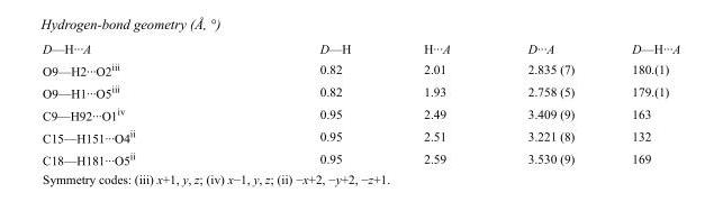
<table><tbody><tr><td>D—H···A</td><td>D—H</td><td>H···A</td><td>D···A</td><td>D—H···A</td></tr><tr><td>O9—H2···O2<sup>iii</sup></td><td>0.82</td><td>2.01</td><td>2.835 (7)</td><td>180.(1)</td></tr><tr><td>O9—H1···O5<sup>iii</sup></td><td>0.82</td><td>1.93</td><td>2.758 (5)</td><td>179.(1)</td></tr><tr><td>C9—H92···O1<sup>iv</sup></td><td>0.95</td><td>2.49</td><td>3.409 (9)</td><td>163</td></tr><tr><td>C15—H151···O4<sup>ii</sup></td><td>0.95</td><td>2.51</td><td>3.221 (8)</td><td>132</td></tr><tr><td>C18—H181···O5<sup>ii</sup></td><td>0.95</td><td>2.59</td><td>3.530 (9)</td><td>169</td></tr></tbody></table>